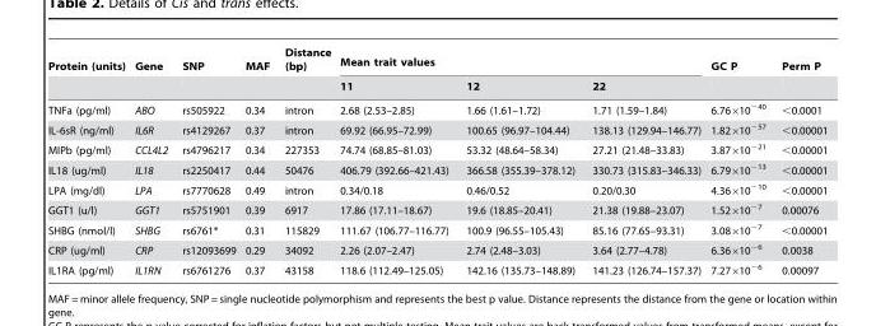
<table><thead><tr><td rowspan="2">Protein (units)</td><td rowspan="2">Gene</td><td rowspan="2">SNP</td><td rowspan="2">MAF</td><td rowspan="2">Distance (bp)</td><td colspan="3">Mean trait values</td><td rowspan="2">GC P</td><td rowspan="2">Perm P</td></tr><tr><td>11</td><td>12</td><td>22</td></tr></thead><tbody><tr><td>TNFa (pg/ml)</td><td>ABO</td><td>rs505922</td><td>0.34</td><td>intron</td><td>2.68 (2.53–2.85)</td><td>1.66 (1.61–1.72)</td><td>1.71 (1.59–1.84)</td><td>6.76×10<sup>−40</sup></td><td>&lt;0.0001</td></tr><tr><td>IL-6sR (ng/ml)</td><td>IL6R</td><td>rs4129267</td><td>0.37</td><td>intron</td><td>69.92 (66.95–72.99)</td><td>100.65 (96.97–104.44)</td><td>138.13 (129.94–146.77)</td><td>1.82×10<sup>−57</sup></td><td>&lt;0.00001</td></tr><tr><td>MIPb (pg/ml)</td><td>CCL4L2</td><td>rs4796217</td><td>0.34</td><td>227353</td><td>74.74 (68.85–81.03)</td><td>53.32 (48.64–58.34)</td><td>27.21 (21.48–33.83)</td><td>3.87×10<sup>−21</sup></td><td>&lt;0.00001</td></tr><tr><td>IL18 (ug/ml)</td><td>IL18</td><td>rs2250417</td><td>0.44</td><td>50476</td><td>406.79 (392.66–421.43)</td><td>366.58 (355.39–378.12)</td><td>330.73 (315.83–346.33)</td><td>6.79×10<sup>−13</sup></td><td>&lt;0.00001</td></tr><tr><td>LPA (mg/dl)</td><td>LPA</td><td>rs7770628</td><td>0.49</td><td>intron</td><td>0.34/0.18</td><td>0.46/0.52</td><td>0.20/0.30</td><td>4.36×10<sup>−10</sup></td><td>&lt;0.00001</td></tr><tr><td>GGT1 (u/l)</td><td>GGT1</td><td>rs5751901</td><td>0.39</td><td>6917</td><td>17.86 (17.11–18.67)</td><td>19.6 (18.85–20.41)</td><td>21.38 (19.88–23.07)</td><td>1.52×10<sup>−7</sup></td><td>0.00076</td></tr><tr><td>SHBG (nmol/l)</td><td>SHBG</td><td>rs6761*</td><td>0.31</td><td>115829</td><td>111.67 (106.77–116.77)</td><td>100.9 (96.55–105.43)</td><td>85.16 (77.65–93.31)</td><td>3.08×10<sup>−7</sup></td><td>&lt;0.00001</td></tr><tr><td>CRP (ug/ml)</td><td>CRP</td><td>rs12093699</td><td>0.29</td><td>34092</td><td>2.26 (2.07–2.47)</td><td>2.74 (2.48–3.03)</td><td>3.64 (2.77–4.78)</td><td>6.36×10<sup>−6</sup></td><td>0.0038</td></tr><tr><td>IL1RA (pg/ml)</td><td>IL1RN</td><td>rs6761276</td><td>0.37</td><td>43158</td><td>118.6 (112.49–125.05)</td><td>142.16 (135.73–148.89)</td><td>141.23 (126.74–157.37)</td><td>7.27×10<sup>−6</sup></td><td>0.00097</td></tr></tbody></table>